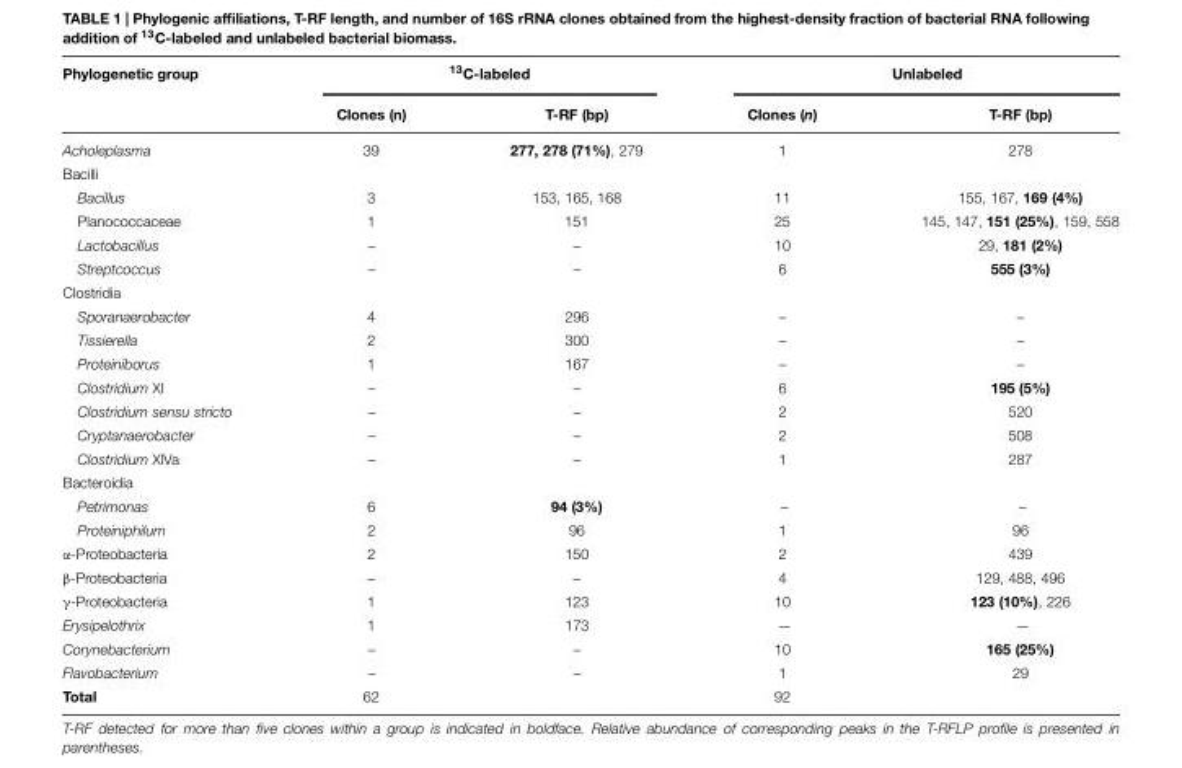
<table><thead><tr><td rowspan="2">Phylogenetic group</td><td colspan="2"><sup>13</sup>C-labeled</td><td colspan="2">Unlabeled</td></tr><tr><td>Clones (n)</td><td>T-RF (bp)</td><td>Clones (n)</td><td>T-RF (bp)</td></tr></thead><tbody><tr><td>Acholeplasma</td><td>39</td><td>277, 278 (71%), 279</td><td>1</td><td>278</td></tr><tr><td colspan="5">Bacilli</td></tr><tr><td>Bacillus</td><td>3</td><td>153, 165, 168</td><td>11</td><td>155, 167, 169 (4%)</td></tr><tr><td>Planococcaceae</td><td>1</td><td>151</td><td>25</td><td>145, 147, 151 (25%), 159, 558</td></tr><tr><td>Lactobacillus</td><td>–</td><td>–</td><td>10</td><td>29, 181 (2%)</td></tr><tr><td>Streptcoccus</td><td>–</td><td>–</td><td>6</td><td>555 (3%)</td></tr><tr><td colspan="5">Clostridia</td></tr><tr><td>Sporanaerobacter</td><td>4</td><td>296</td><td>–</td><td>–</td></tr><tr><td>Tissierella</td><td>2</td><td>300</td><td>–</td><td>–</td></tr><tr><td>Proteiniborus</td><td>1</td><td>167</td><td>–</td><td>–</td></tr><tr><td>Clostridium XI</td><td>–</td><td>–</td><td>6</td><td>195 (5%)</td></tr><tr><td>Clostridium sensu stricto</td><td>–</td><td>–</td><td>2</td><td>520</td></tr><tr><td>Cryptanaerobacter</td><td>–</td><td>–</td><td>2</td><td>508</td></tr><tr><td>Clostridium XlVa</td><td>–</td><td>–</td><td>1</td><td>287</td></tr><tr><td colspan="5">Bacteroidia</td></tr><tr><td>Petrimonas</td><td>6</td><td>94 (3%)</td><td>–</td><td>–</td></tr><tr><td>Proteiniphilum</td><td>2</td><td>96</td><td>1</td><td>96</td></tr><tr><td>α-Proteobacteria</td><td>2</td><td>150</td><td>2</td><td>439</td></tr><tr><td>β-Proteobacteria</td><td>–</td><td>–</td><td>4</td><td>129, 488, 496</td></tr><tr><td>γ-Proteobacteria</td><td>1</td><td>123</td><td>10</td><td>123 (10%), 226</td></tr><tr><td>Erysipelothrix</td><td>1</td><td>173</td><td>—</td><td>—</td></tr><tr><td>Corynebacterium</td><td>–</td><td>–</td><td>10</td><td>165 (25%)</td></tr><tr><td>Flavobacterium</td><td>–</td><td>–</td><td>1</td><td>29</td></tr><tr><td>Total</td><td>62</td><td></td><td>92</td><td></td></tr></tbody></table>